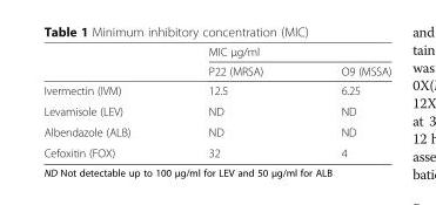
<table><thead><tr><td rowspan="2"></td><td colspan="2">MIC μg/ml</td></tr><tr><td>P22 (MRSA)</td><td>O9 (MSSA)</td></tr></thead><tbody><tr><td>Ivermectin (IVM)</td><td>12.5</td><td>6.25</td></tr><tr><td>Levamisole (LEV)</td><td>ND</td><td>ND</td></tr><tr><td>Albendazole (ALB)</td><td>ND</td><td>ND</td></tr><tr><td>Cefoxitin (FOX)</td><td>32</td><td>4</td></tr></tbody></table>